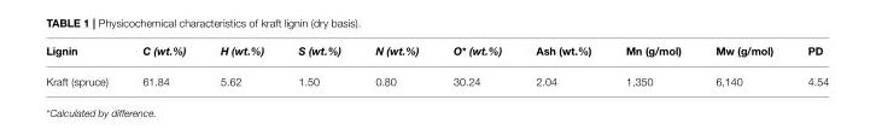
<table><thead><tr><td>Lignin</td><td>C (wt.%)</td><td>H (wt.%)</td><td>S (wt.%)</td><td>N (wt.%)</td><td>O* (wt.%)</td><td>Ash (wt.%)</td><td>Mn (g/mol)</td><td>Mw (g/mol)</td><td>PD</td></tr></thead><tbody><tr><td>Kraft (spruce)</td><td>61.84</td><td>5.62</td><td>1.50</td><td>0.80</td><td>30.24</td><td>2.04</td><td>1,350</td><td>6,140</td><td>4.54</td></tr></tbody></table>